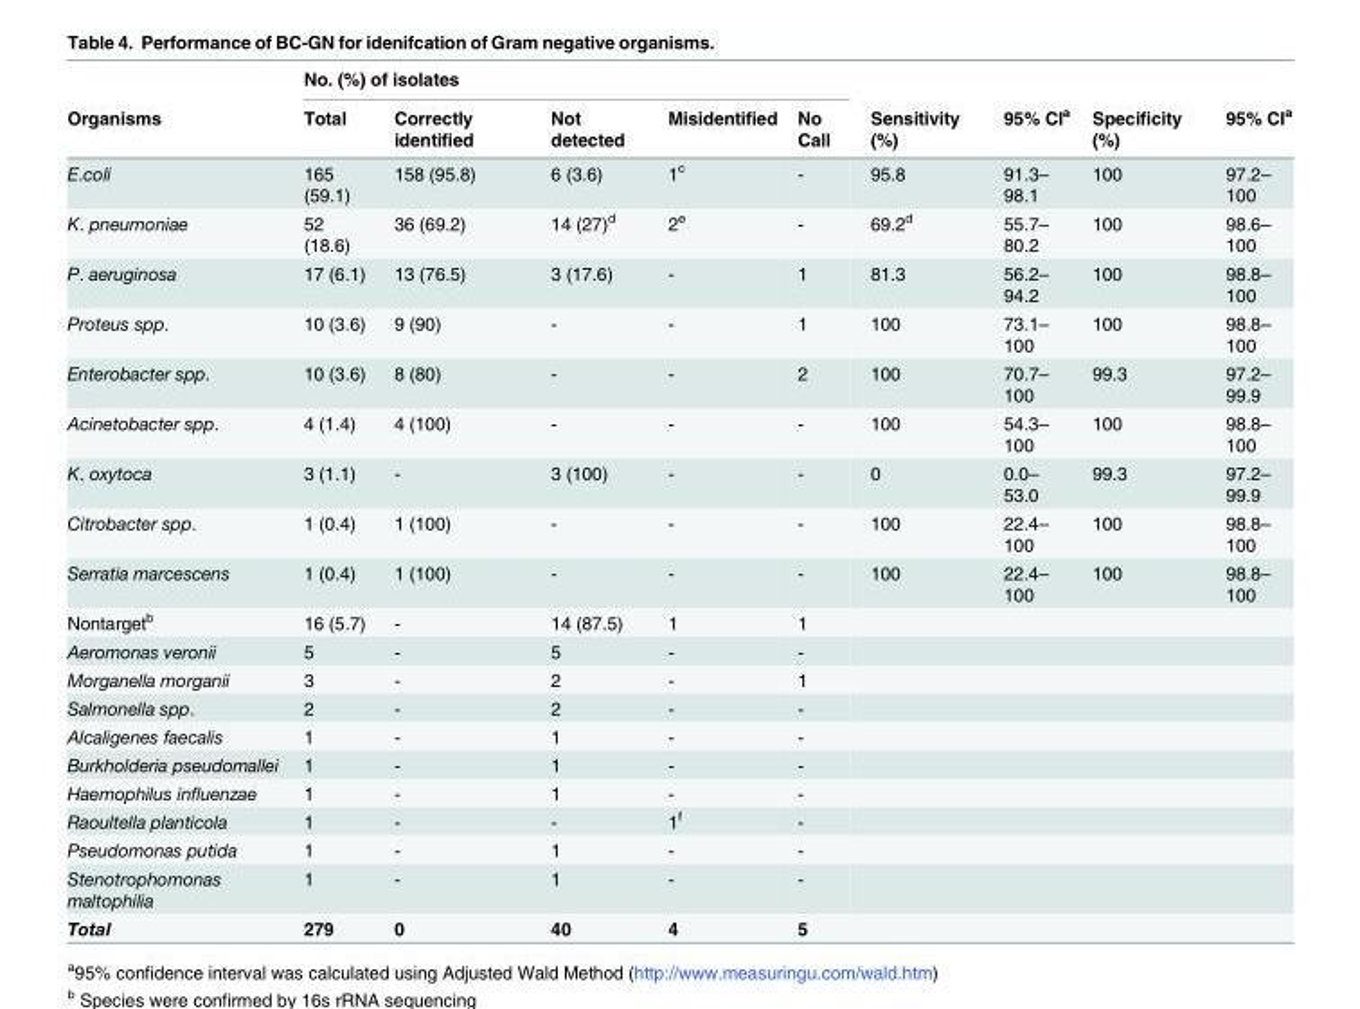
<table><thead><tr><td rowspan="2">Organisms</td><td colspan="5">No. (%) of isolates</td><td rowspan="2">Sensitivity (%)</td><td rowspan="2">95% CI<sup>a</sup></td><td rowspan="2">Specificity (%)</td><td rowspan="2">95% CI<sup>a</sup></td></tr><tr><td>Total</td><td>Correctly identified</td><td>Not detected</td><td>Misidentified</td><td>No Call</td></tr></thead><tbody><tr><td>E.coli</td><td>165 (59.1)</td><td>158 (95.8)</td><td>6 (3.6)</td><td>1<sup>c</sup></td><td>-</td><td>95.8</td><td>91.3– 98.1</td><td>100</td><td>97.2– 100</td></tr><tr><td>K. pneumoniae</td><td>52 (18.6)</td><td>36 (69.2)</td><td>14 (27)<sup>d</sup></td><td>2<sup>e</sup></td><td>-</td><td>69.2<sup>d</sup></td><td>55.7– 80.2</td><td>100</td><td>98.6– 100</td></tr><tr><td>P. aeruginosa</td><td>17 (6.1)</td><td>13 (76.5)</td><td>3 (17.6)</td><td>-</td><td>1</td><td>81.3</td><td>56.2– 94.2</td><td>100</td><td>98.8– 100</td></tr><tr><td>Proteus spp.</td><td>10 (3.6)</td><td>9 (90)</td><td>-</td><td>-</td><td>1</td><td>100</td><td>73.1– 100</td><td>100</td><td>98.8– 100</td></tr><tr><td>Enterobacter spp.</td><td>10 (3.6)</td><td>8 (80)</td><td>-</td><td>-</td><td>2</td><td>100</td><td>70.7– 100</td><td>99.3</td><td>97.2– 99.9</td></tr><tr><td>Acinetobacter spp.</td><td>4 (1.4)</td><td>4 (100)</td><td>-</td><td>-</td><td>-</td><td>100</td><td>54.3– 100</td><td>100</td><td>98.8– 100</td></tr><tr><td>K. oxytoca</td><td>3 (1.1)</td><td>-</td><td>3 (100)</td><td>-</td><td>-</td><td>0</td><td>0.0– 53.0</td><td>99.3</td><td>97.2– 99.9</td></tr><tr><td>Citrobacter spp.</td><td>1 (0.4)</td><td>1 (100)</td><td>-</td><td>-</td><td>-</td><td>100</td><td>22.4– 100</td><td>100</td><td>98.8– 100</td></tr><tr><td>Serratia marcescens</td><td>1 (0.4)</td><td>1 (100)</td><td>-</td><td>-</td><td>-</td><td>100</td><td>22.4– 100</td><td>100</td><td>98.8– 100</td></tr><tr><td>Nontarget<sup>b</sup></td><td>16 (5.7)</td><td>-</td><td>14 (87.5)</td><td>1</td><td>1</td><td></td><td></td><td></td><td></td></tr><tr><td>Aeromonas veronii</td><td>5</td><td>-</td><td>5</td><td>-</td><td>-</td><td></td><td></td><td></td><td></td></tr><tr><td>Morganella morganii</td><td>3</td><td>-</td><td>2</td><td>-</td><td>1</td><td></td><td></td><td></td><td></td></tr><tr><td>Salmonella spp.</td><td>2</td><td>-</td><td>2</td><td>-</td><td>-</td><td></td><td></td><td></td><td></td></tr><tr><td>Alcaligenes faecalis</td><td>1</td><td>-</td><td>1</td><td>-</td><td>-</td><td></td><td></td><td></td><td></td></tr><tr><td>Burkholderia pseudomallei</td><td>1</td><td>-</td><td>1</td><td>-</td><td>-</td><td></td><td></td><td></td><td></td></tr><tr><td>Haemophilus influenzae</td><td>1</td><td>-</td><td>1</td><td>-</td><td>-</td><td></td><td></td><td></td><td></td></tr><tr><td>Raoultella planticola</td><td>1</td><td>-</td><td>-</td><td>1<sup>f</sup></td><td>-</td><td></td><td></td><td></td><td></td></tr><tr><td>Pseudomonas putida</td><td>1</td><td>-</td><td>1</td><td>-</td><td>-</td><td></td><td></td><td></td><td></td></tr><tr><td>Stenotrophomonas maltophilia</td><td>1</td><td>-</td><td>1</td><td>-</td><td>-</td><td></td><td></td><td></td><td></td></tr><tr><td>Total</td><td>279</td><td>0</td><td>40</td><td>4</td><td>5</td><td></td><td></td><td></td><td></td></tr></tbody></table>